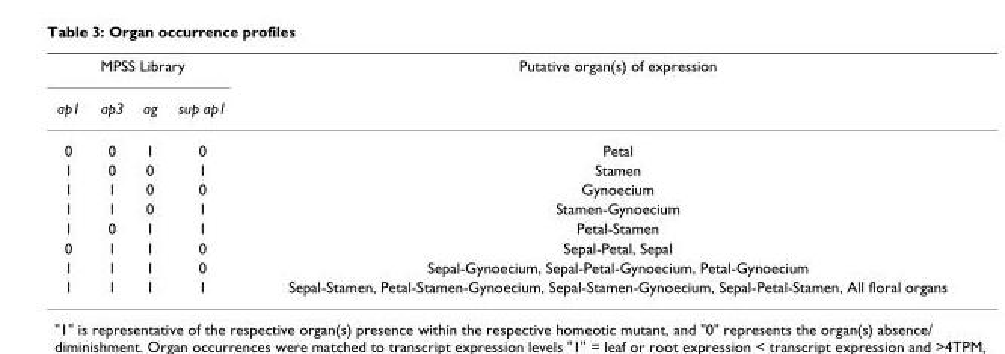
<table><thead><tr><td colspan="4">MPSS Library</td><td rowspan="2">Putative organ(s) of expression</td></tr><tr><td>ap1</td><td>ap3</td><td>ag</td><td>sup ap1</td></tr></thead><tbody><tr><td>0</td><td>0</td><td>1</td><td>0</td><td>Petal</td></tr><tr><td>1</td><td>0</td><td>0</td><td>1</td><td>Stamen</td></tr><tr><td>1</td><td>1</td><td>0</td><td>0</td><td>Gynoecium</td></tr><tr><td>1</td><td>1</td><td>0</td><td>1</td><td>Stamen-Gynoecium</td></tr><tr><td>1</td><td>0</td><td>1</td><td>1</td><td>Petal-Stamen</td></tr><tr><td>0</td><td>1</td><td>1</td><td>0</td><td>Sepal-Petal, Sepal</td></tr><tr><td>1</td><td>1</td><td>1</td><td>0</td><td>Sepal-Gynoecium, Sepal-Petal-Gynoecium, Petal-Gynoecium</td></tr><tr><td>1</td><td>1</td><td>1</td><td>1</td><td>Sepal-Stamen, Petal-Stamen-Gynoecium, Sepal-Stamen-Gynoecium, Sepal-Petal-Stamen, All floral organs</td></tr></tbody></table>